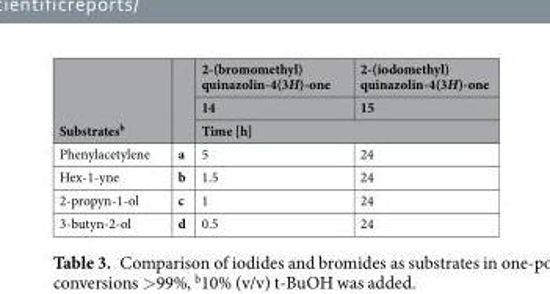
<table><thead><tr><td rowspan="3">Substrates<sup>b</sup></td><td rowspan="3"></td><td rowspan="2">2-(bromomethyl) quinazolin-4(3H)-one 14</td><td rowspan="2">2-(iodomethyl) quinazolin-4(3H)-one 15</td></tr><tr></tr><tr><td colspan="2">Time [h]</td></tr></thead><tbody><tr><td>Phenylacetylene</td><td>a</td><td>5</td><td>24</td></tr><tr><td>Hex-1-yne</td><td>b</td><td>1.5</td><td>24</td></tr><tr><td>2-propyn-1-ol</td><td>c</td><td>1</td><td>24</td></tr><tr><td>3-butyn-2-ol</td><td>d</td><td>0.5</td><td>24</td></tr></tbody></table>